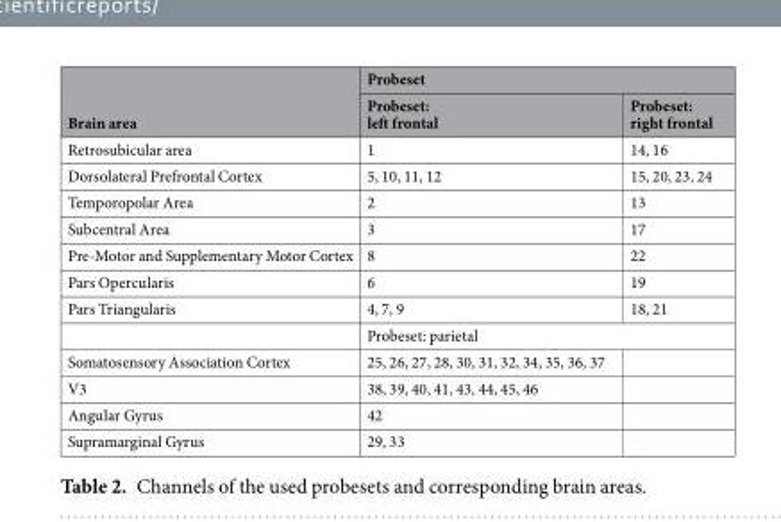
<table><thead><tr><td rowspan="2">Brain area</td><td colspan="2">Probeset</td></tr><tr><td>Probeset: left frontal</td><td>Probeset: right frontal</td></tr></thead><tbody><tr><td>Retrosubicular area</td><td>1</td><td>14, 16</td></tr><tr><td>Dorsolateral Prefrontal Cortex</td><td>5, 10, 11, 12</td><td>15, 20, 23, 24</td></tr><tr><td>Temporopolar Area</td><td>2</td><td>13</td></tr><tr><td>Subcentral Area</td><td>3</td><td>17</td></tr><tr><td>Pre-Motor and Supplementary Motor Cortex</td><td>8</td><td>22</td></tr><tr><td>Pars Opercularis</td><td>6</td><td>19</td></tr><tr><td rowspan="2">Pars Triangularis</td><td>4, 7, 9</td><td>18, 21</td></tr><tr><td colspan="2">Probeset: parietal</td></tr><tr><td>Somatosensory Association Cortex</td><td>25, 26, 27, 28, 30, 31, 32, 34, 35, 36, 37</td><td></td></tr><tr><td>V3</td><td>38, 39, 40, 41, 43, 44, 45, 46</td><td></td></tr><tr><td>Angular Gyrus</td><td>42</td><td></td></tr><tr><td>Supramarginal Gyrus</td><td>29, 33</td><td></td></tr></tbody></table>